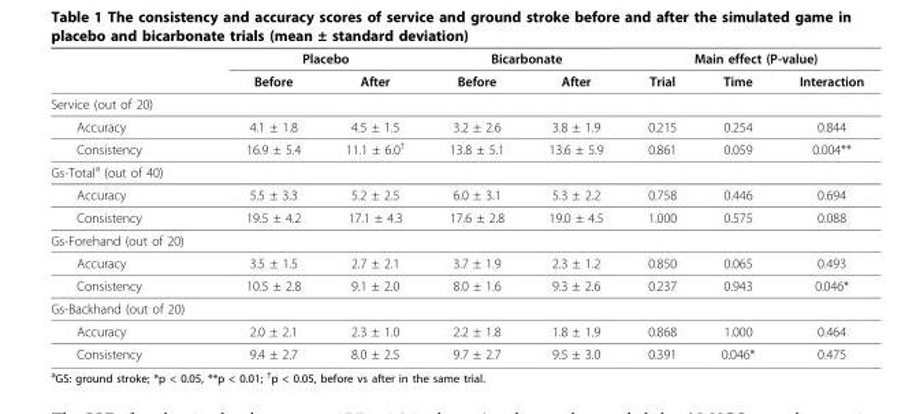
<table><thead><tr><td rowspan="2"></td><td colspan="2">Placebo</td><td colspan="2">Bicarbonate</td><td colspan="3">Main effect (P-value)</td></tr><tr><td>Before</td><td>After</td><td>Before</td><td>After</td><td>Trial</td><td>Time</td><td>Interaction</td></tr></thead><tbody><tr><td colspan="8">Service (out of 20)</td></tr><tr><td>Accuracy</td><td>4.1 ± 1.8</td><td>4.5 ± 1.5</td><td>3.2 ± 2.6</td><td>3.8 ± 1.9</td><td>0.215</td><td>0.254</td><td>0.844</td></tr><tr><td>Consistency</td><td>16.9 ± 5.4</td><td>11.1 ± 6.0<sup>†</sup></td><td>13.8 ± 5.1</td><td>13.6 ± 5.9</td><td>0.861</td><td>0.059</td><td>0.004**</td></tr><tr><td colspan="8">Gs-Total<sup>a</sup> (out of 40)</td></tr><tr><td>Accuracy</td><td>5.5 ± 3.3</td><td>5.2 ± 2.5</td><td>6.0 ± 3.1</td><td>5.3 ± 2.2</td><td>0.758</td><td>0.446</td><td>0.694</td></tr><tr><td>Consistency</td><td>19.5 ± 4.2</td><td>17.1 ± 4.3</td><td>17.6 ± 2.8</td><td>19.0 ± 4.5</td><td>1.000</td><td>0.575</td><td>0.088</td></tr><tr><td colspan="8">Gs-Forehand (out of 20)</td></tr><tr><td>Accuracy</td><td>3.5 ± 1.5</td><td>2.7 ± 2.1</td><td>3.7 ± 1.9</td><td>2.3 ± 1.2</td><td>0.850</td><td>0.065</td><td>0.493</td></tr><tr><td>Consistency</td><td>10.5 ± 2.8</td><td>9.1 ± 2.0</td><td>8.0 ± 1.6</td><td>9.3 ± 2.6</td><td>0.237</td><td>0.943</td><td>0.046*</td></tr><tr><td colspan="8">Gs-Backhand (out of 20)</td></tr><tr><td>Accuracy</td><td>2.0 ± 2.1</td><td>2.3 ± 1.0</td><td>2.2 ± 1.8</td><td>1.8 ± 1.9</td><td>0.868</td><td>1.000</td><td>0.464</td></tr><tr><td>Consistency</td><td>9.4 ± 2.7</td><td>8.0 ± 2.5</td><td>9.7 ± 2.7</td><td>9.5 ± 3.0</td><td>0.391</td><td>0.046*</td><td>0.475</td></tr></tbody></table>